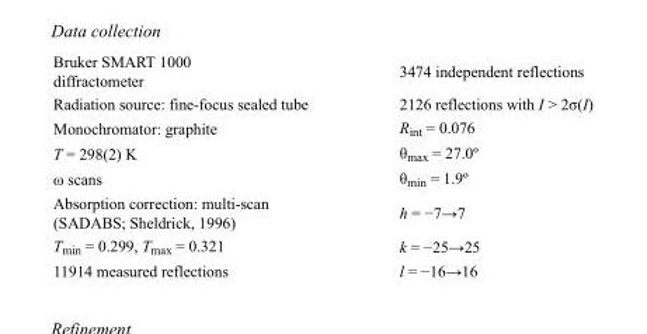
<table><tbody><tr><td>Bruker SMART 1000 diffractometer</td><td>3474 independent reflections</td></tr><tr><td>Radiation source: fine-focus sealed tube</td><td>2126 reflections with I &gt; 2σ(I)</td></tr><tr><td>Monochromator: graphite</td><td>R<sub>int</sub> = 0.076</td></tr><tr><td>T = 298(2) K</td><td>θ<sub>max</sub> = 27.0º</td></tr><tr><td>ω scans</td><td>θ<sub>min</sub> = 1.9º</td></tr><tr><td>Absorption correction: multi-scan (SADABS; Sheldrick, 1996)</td><td>h = −7→7</td></tr><tr><td>T<sub>min</sub> = 0.299, T<sub>max</sub> = 0.321</td><td>k = −25→25</td></tr><tr><td>11914 measured reflections</td><td>l = −16→16</td></tr></tbody></table>